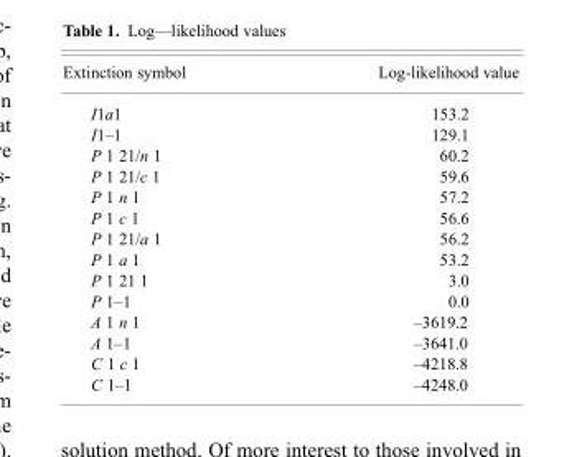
<table><thead><tr><td>Extinction symbol</td><td>Log-likelihood value</td></tr></thead><tbody><tr><td>I1a1</td><td>153.2</td></tr><tr><td>I1–1</td><td>129.1</td></tr><tr><td>P 1 21/n 1</td><td>60.2</td></tr><tr><td>P 1 21/c 1</td><td>59.6</td></tr><tr><td>P 1 n 1</td><td>57.2</td></tr><tr><td>P 1 c 1</td><td>56.6</td></tr><tr><td>P 1 21/a 1</td><td>56.2</td></tr><tr><td>P 1 a 1</td><td>53.2</td></tr><tr><td>P 1 21 1</td><td>3.0</td></tr><tr><td>P 1–1</td><td>0.0</td></tr><tr><td>A 1 n 1</td><td>–3619.2</td></tr><tr><td>A 1–1</td><td>–3641.0</td></tr><tr><td>C 1 c 1</td><td>–4218.8</td></tr><tr><td>C 1–1</td><td>–4248.0</td></tr></tbody></table>